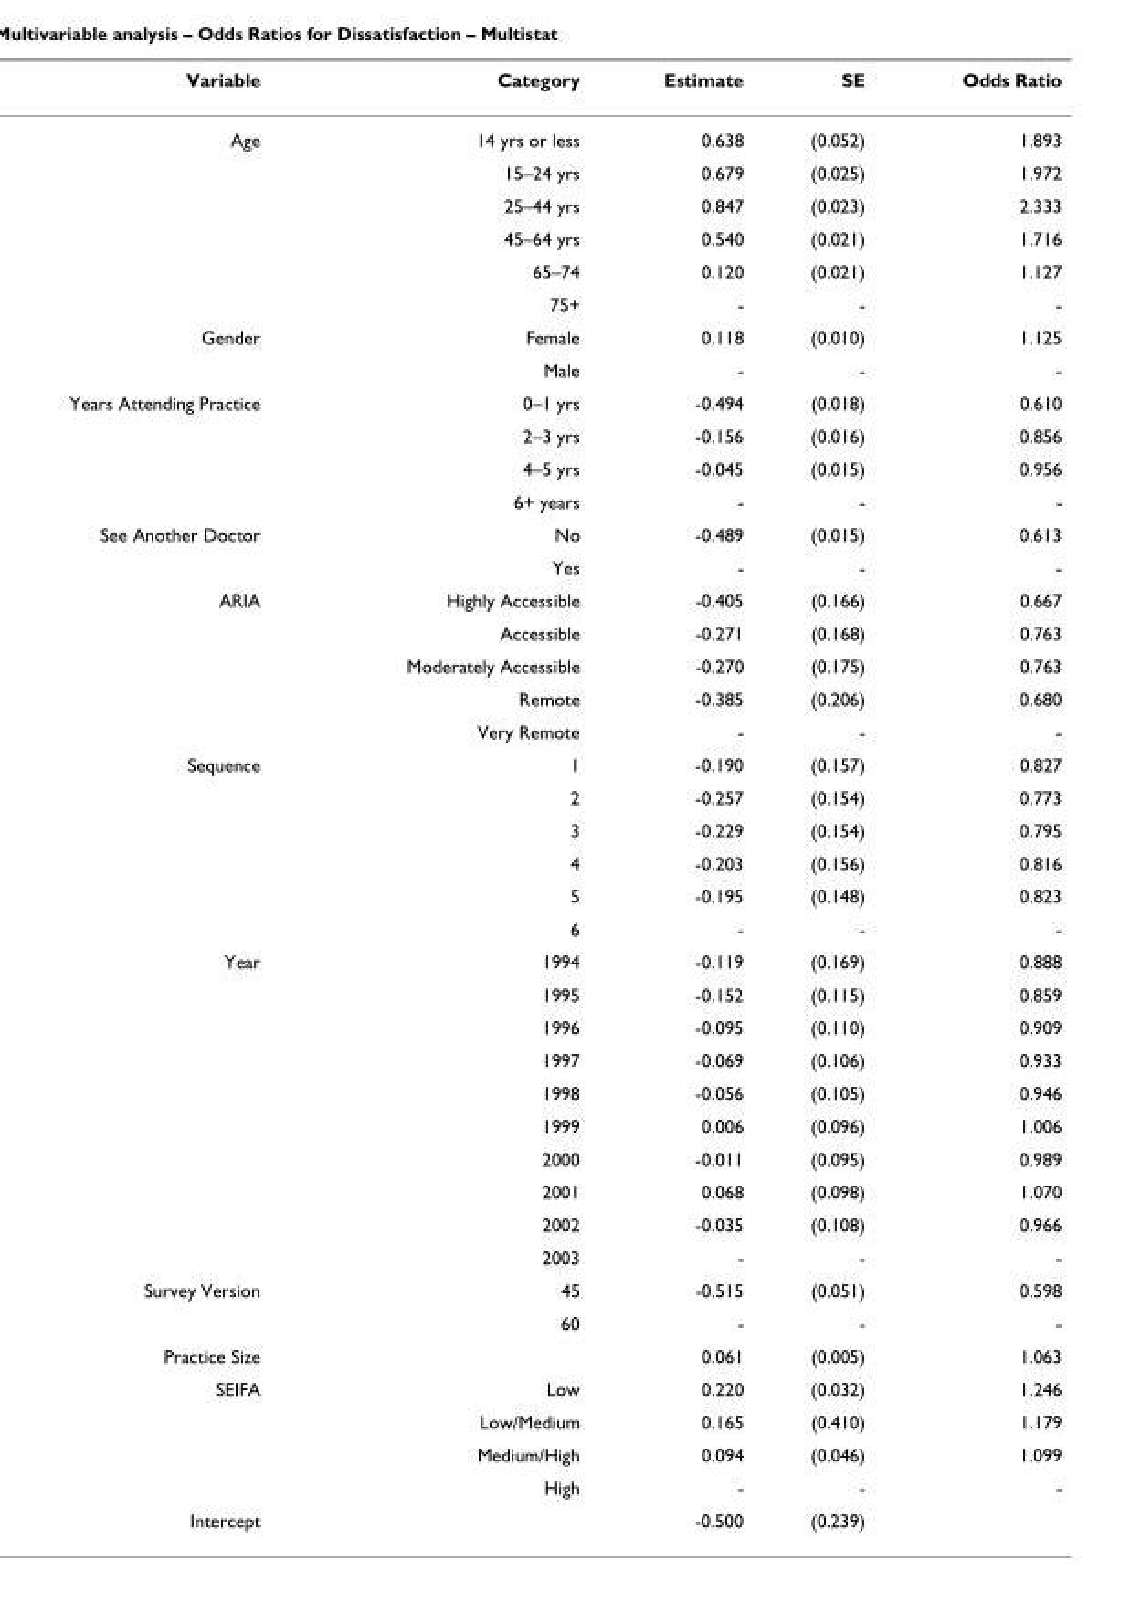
<table><thead><tr><td>Variable</td><td>Category</td><td>Estimate</td><td>SE</td><td>Odds Ratio</td></tr></thead><tbody><tr><td rowspan="6">Age</td><td>14 yrs or less</td><td>0.638</td><td>(0.052)</td><td>1.893</td></tr><tr><td>15–24 yrs</td><td>0.679</td><td>(0.025)</td><td>1.972</td></tr><tr><td>25–44 yrs</td><td>0.847</td><td>(0.023)</td><td>2.333</td></tr><tr><td>45–64 yrs</td><td>0.540</td><td>(0.021)</td><td>1.716</td></tr><tr><td>65–74</td><td>0.120</td><td>(0.021)</td><td>1.127</td></tr><tr><td>75+</td><td>-</td><td>-</td><td>-</td></tr><tr><td rowspan="2">Gender</td><td>Female</td><td>0.118</td><td>(0.010)</td><td>1.125</td></tr><tr><td>Male</td><td>-</td><td>-</td><td>-</td></tr><tr><td rowspan="4">Years Attending Practice</td><td>0–1 yrs</td><td>-0.494</td><td>(0.018)</td><td>0.610</td></tr><tr><td>2–3 yrs</td><td>-0.156</td><td>(0.016)</td><td>0.856</td></tr><tr><td>4–5 yrs</td><td>-0.045</td><td>(0.015)</td><td>0.956</td></tr><tr><td>6+ years</td><td>-</td><td>-</td><td>-</td></tr><tr><td rowspan="2">See Another Doctor</td><td>No</td><td>-0.489</td><td>(0.015)</td><td>0.613</td></tr><tr><td>Yes</td><td>-</td><td>-</td><td>-</td></tr><tr><td rowspan="5">ARIA</td><td>Highly Accessible</td><td>-0.405</td><td>(0.166)</td><td>0.667</td></tr><tr><td>Accessible</td><td>-0.271</td><td>(0.168)</td><td>0.763</td></tr><tr><td>Moderately Accessible</td><td>-0.270</td><td>(0.175)</td><td>0.763</td></tr><tr><td>Remote</td><td>-0.385</td><td>(0.206)</td><td>0.680</td></tr><tr><td>Very Remote</td><td>-</td><td>-</td><td>-</td></tr><tr><td rowspan="6">Sequence</td><td>1</td><td>-0.190</td><td>(0.157)</td><td>0.827</td></tr><tr><td>2</td><td>-0.257</td><td>(0.154)</td><td>0.773</td></tr><tr><td>3</td><td>-0.229</td><td>(0.154)</td><td>0.795</td></tr><tr><td>4</td><td>-0.203</td><td>(0.156)</td><td>0.816</td></tr><tr><td>5</td><td>-0.195</td><td>(0.148)</td><td>0.823</td></tr><tr><td>6</td><td>-</td><td>-</td><td>-</td></tr><tr><td rowspan="10">Year</td><td>1994</td><td>-0.119</td><td>(0.169)</td><td>0.888</td></tr><tr><td>1995</td><td>-0.152</td><td>(0.115)</td><td>0.859</td></tr><tr><td>1996</td><td>-0.095</td><td>(0.110)</td><td>0.909</td></tr><tr><td>1997</td><td>-0.069</td><td>(0.106)</td><td>0.933</td></tr><tr><td>1998</td><td>-0.056</td><td>(0.105)</td><td>0.946</td></tr><tr><td>1999</td><td>0.006</td><td>(0.096)</td><td>1.006</td></tr><tr><td>2000</td><td>-0.011</td><td>(0.095)</td><td>0.989</td></tr><tr><td>2001</td><td>0.068</td><td>(0.098)</td><td>1.070</td></tr><tr><td>2002</td><td>-0.035</td><td>(0.108)</td><td>0.966</td></tr><tr><td>2003</td><td>-</td><td>-</td><td>-</td></tr><tr><td rowspan="2">Survey Version</td><td>45</td><td>-0.515</td><td>(0.051)</td><td>0.598</td></tr><tr><td>60</td><td>-</td><td>-</td><td>-</td></tr><tr><td>Practice Size</td><td></td><td>0.061</td><td>(0.005)</td><td>1.063</td></tr><tr><td rowspan="4">SEIFA</td><td>Low</td><td>0.220</td><td>(0.032)</td><td>1.246</td></tr><tr><td>Low/Medium</td><td>0.165</td><td>(0.410)</td><td>1.179</td></tr><tr><td>Medium/High</td><td>0.094</td><td>(0.046)</td><td>1.099</td></tr><tr><td>High</td><td>-</td><td>-</td><td>-</td></tr><tr><td>Intercept</td><td></td><td>-0.500</td><td>(0.239)</td><td></td></tr></tbody></table>